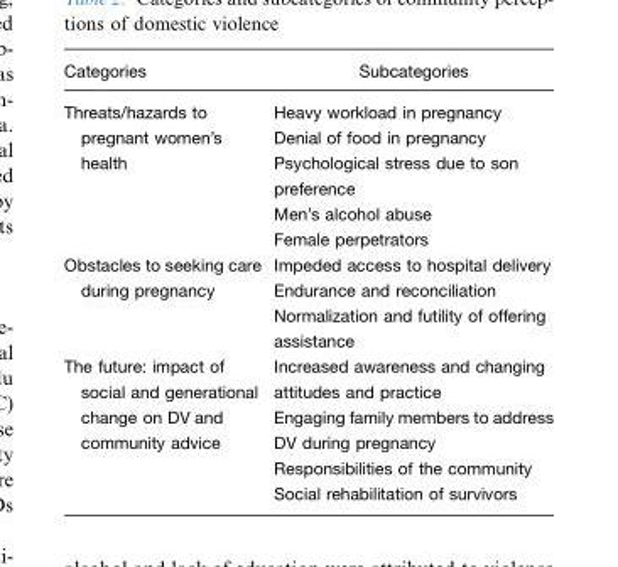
<table><thead><tr><td>Categories</td><td>Subcategories</td></tr></thead><tbody><tr><td>Threats/hazards to pregnant women’s health</td><td>Heavy workload in pregnancy Denial of food in pregnancy Psychological stress due to son preference Men’s alcohol abuse Female perpetrators</td></tr><tr><td>Obstacles to seeking care during pregnancy</td><td>Impeded access to hospital delivery Endurance and reconciliation Normalization and futility of offering assistance</td></tr><tr><td>The future: impact of social and generational change on DV and community advice</td><td>Increased awareness and changing attitudes and practice Engaging family members to address DV during pregnancy Responsibilities of the community Social rehabilitation of survivors</td></tr></tbody></table>